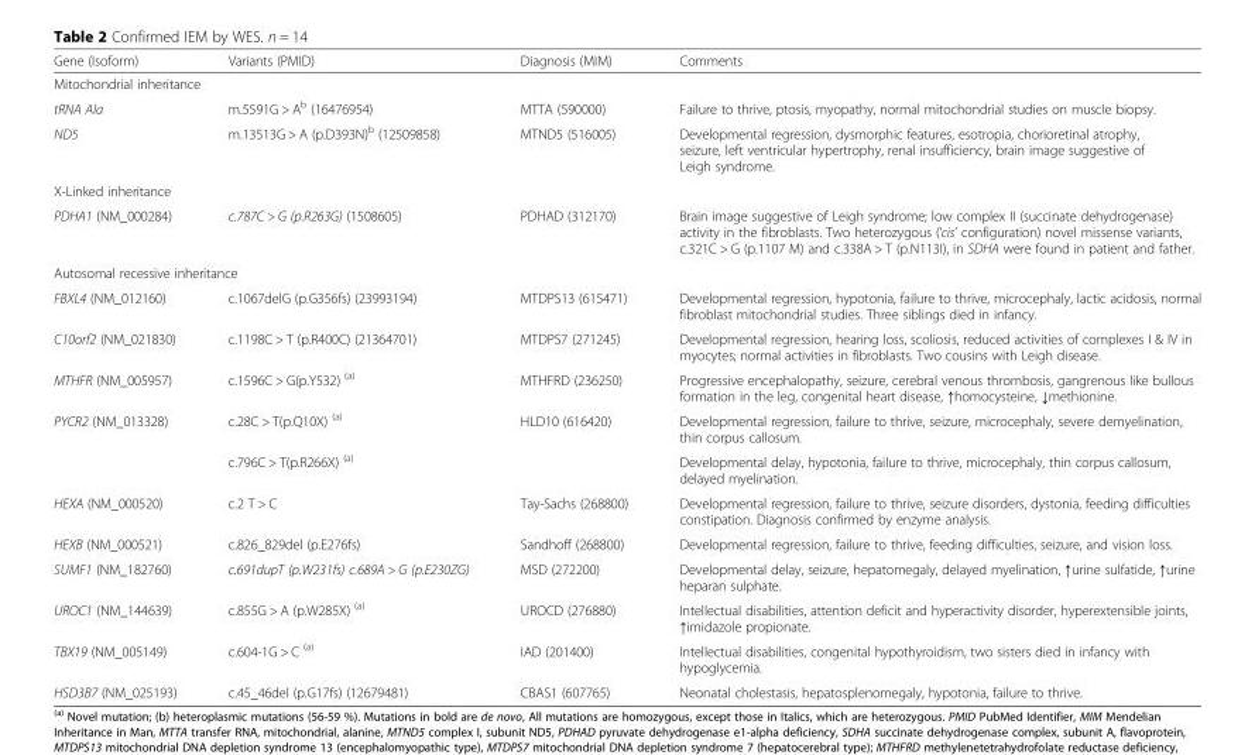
<table><thead><tr><td>Gene (Isoform)</td><td>Variants (PMID)</td><td>Diagnosis (MIM)</td><td>Comments</td></tr></thead><tbody><tr><td colspan="4">Mitochondrial inheritance</td></tr><tr><td>tRNA Ala</td><td>m.5591G &gt; A<sup>b</sup> (16476954)</td><td>MTTA (590000)</td><td>Failure to thrive, ptosis, myopathy, normal mitochondrial studies on muscle biopsy.</td></tr><tr><td>ND5</td><td>m.13513G &gt; A (p.D393N)<sup>b</sup> (12509858)</td><td>MTND5 (516005)</td><td>Developmental regression, dysmorphic features, esotropia, chorioretinal atrophy, seizure, left ventricular hypertrophy, renal insufficiency, brain image suggestive of Leigh syndrome.</td></tr><tr><td colspan="4">X-Linked inheritance</td></tr><tr><td>PDHA1 (NM_000284)</td><td>c.787C &gt; G (p.R263G) (1508605)</td><td>PDHAD (312170)</td><td>Brain image suggestive of Leigh syndrome; low complex II (succinate dehydrogenase) activity in the fibroblasts. Two heterozygous (‘cis’ configuration) novel missense variants, c.321C &gt; G (p.1107 M) and c.338A &gt; T (p.N113I), in SDHA were found in patient and father.</td></tr><tr><td colspan="4">Autosomal recessive inheritance</td></tr><tr><td>FBXL4 (NM_012160)</td><td>c.1067delG (p.G356fs) (23993194)</td><td>MTDPS13 (615471)</td><td>Developmental regression, hypotonia, failure to thrive, microcephaly, lactic acidosis, normal fibroblast mitochondrial studies. Three siblings died in infancy.</td></tr><tr><td>C10orf2 (NM_021830)</td><td>c.1198C &gt; T (p.R400C) (21364701)</td><td>MTDPS7 (271245)</td><td>Developmental regression, hearing loss, scoliosis, reduced activities of complexes I &amp; IV in myocytes; normal activities in fibroblasts. Two cousins with Leigh disease.</td></tr><tr><td>MTHFR (NM_005957)</td><td>c.1596C &gt; G(p.Y532) <sup>(a)</sup></td><td>MTHFRD (236250)</td><td>Progressive encephalopathy, seizure, cerebral venous thrombosis, gangrenous like bullous formation in the leg, congenital heart disease, ↑homocysteine, ↓methionine.</td></tr><tr><td rowspan="2">PYCR2 (NM_013328)</td><td>c.28C &gt; T(p.Q10X) <sup>(a)</sup></td><td rowspan="2">HLD10 (616420)</td><td>Developmental regression, failure to thrive, seizure, microcephaly, severe demyelination, thin corpus callosum.</td></tr><tr><td>c.796C &gt; T(p.R266X) <sup>(a)</sup></td><td>Developmental delay, hypotonia, failure to thrive, microcephaly, thin corpus callosum, delayed myelination.</td></tr><tr><td>HEXA (NM_000520)</td><td>c.2 T &gt; C</td><td>Tay-Sachs (268800)</td><td>Developmental regression, failure to thrive, seizure disorders, dystonia, feeding difficulties constipation. Diagnosis confirmed by enzyme analysis.</td></tr><tr><td>HEXB (NM_000521)</td><td>c.826_829del (p.E276fs)</td><td>Sandhoff (268800)</td><td>Developmental regression, failure to thrive, feeding difficulties, seizure, and vision loss.</td></tr><tr><td>SUMF1 (NM_182760)</td><td>c.691dupT (p.W231fs) c.689A &gt; G (p.E230ZG)</td><td>MSD (272200)</td><td>Developmental delay, seizure, hepatomegaly, delayed myelination, ↑urine sulfatide, ↑urine heparan sulphate.</td></tr><tr><td>UROC1 (NM_144639)</td><td>c.855G &gt; A (p.W285X) <sup>(a)</sup></td><td>UROCD (276880)</td><td>Intellectual disabilities, attention deficit and hyperactivity disorder, hyperextensible joints, ↑imidazole propionate.</td></tr><tr><td>TBX19 (NM_005149)</td><td>c.604-1G &gt; C <sup>(a)</sup></td><td>IAD (201400)</td><td>Intellectual disabilities, congenital hypothyroidism, two sisters died in infancy with hypoglycemia.</td></tr><tr><td>HSD3B7 (NM_025193)</td><td>c.45_46del (p.G17fs) (12679481)</td><td>CBAS1 (607765)</td><td>Neonatal cholestasis, hepatosplenomegaly, hypotonia, failure to thrive.</td></tr></tbody></table>